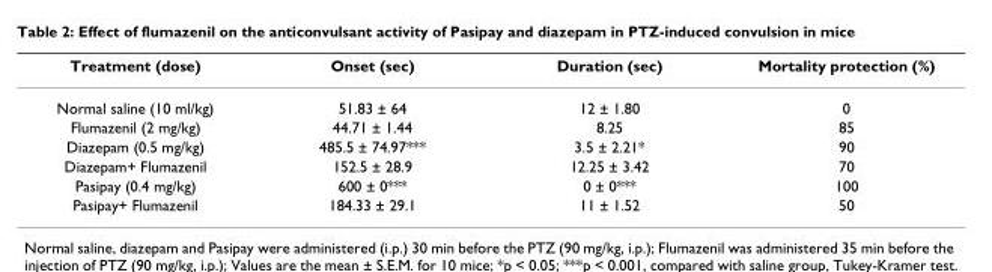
<table><thead><tr><td>Treatment (dose)</td><td>Onset (sec)</td><td>Duration (sec)</td><td>Mortality protection (%)</td></tr></thead><tbody><tr><td>Normal saline (10 ml/kg)</td><td>51.83 ± 64</td><td>12 ± 1.80</td><td>0</td></tr><tr><td>Flumazenil (2 mg/kg)</td><td>44.71 ± 1.44</td><td>8.25</td><td>85</td></tr><tr><td>Diazepam (0.5 mg/kg)</td><td>485.5 ± 74.97***</td><td>3.5 ± 2.21*</td><td>90</td></tr><tr><td>Diazepam+ Flumazenil</td><td>152.5 ± 28.9</td><td>12.25 ± 3.42</td><td>70</td></tr><tr><td>Pasipay (0.4 mg/kg)</td><td>600 ± 0***</td><td>0 ± 0***</td><td>100</td></tr><tr><td>Pasipay+ Flumazenil</td><td>184.33 ± 29.1</td><td>11 ± 1.52</td><td>50</td></tr></tbody></table>